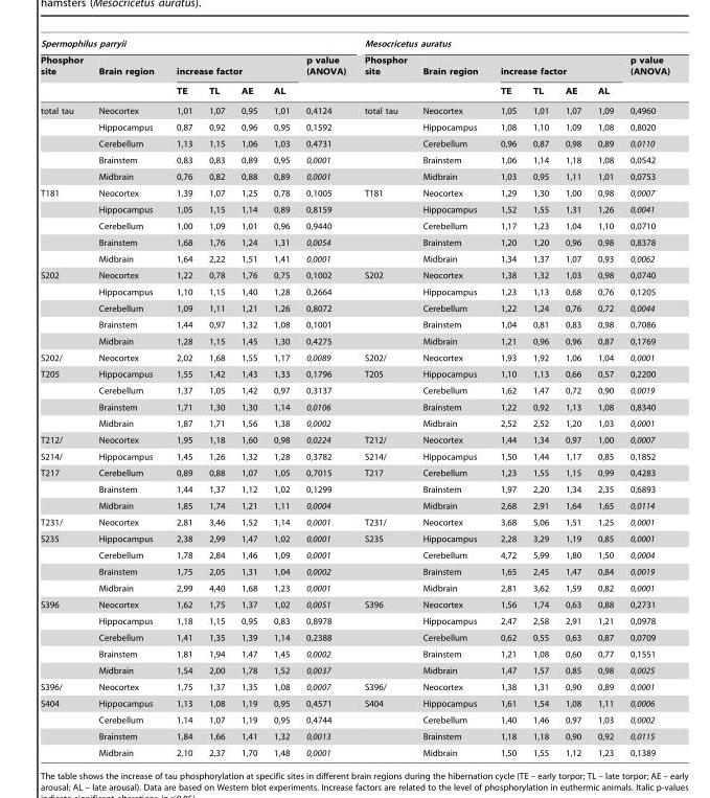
<table><thead><tr><td colspan="7">Spermophilus parryii</td><td colspan="7">Mesocricetus auratus</td></tr><tr><td rowspan="2">Phosphor site</td><td rowspan="2">Brain region</td><td colspan="4">increase factor</td><td rowspan="2">p value (ANOVA)</td><td rowspan="2">Phosphor site</td><td rowspan="2">Brain region</td><td colspan="4">increase factor</td><td rowspan="2">p value (ANOVA)</td></tr><tr><td>TE</td><td>TL</td><td>AE</td><td>AL</td><td>TE</td><td>TL</td><td>AE</td><td>AL</td></tr></thead><tbody><tr><td rowspan="5">total tau</td><td>Neocortex</td><td>1,01</td><td>1,07</td><td>0,95</td><td>1,01</td><td>0,4124</td><td>total tau</td><td>Neocortex</td><td>1,05</td><td>1,01</td><td>1,07</td><td>1,09</td><td>0,4960</td></tr><tr><td>Hippocampus</td><td>0,87</td><td>0,92</td><td>0,96</td><td>0,95</td><td>0,1592</td><td></td><td>Hippocampus</td><td>1,08</td><td>1,10</td><td>1,09</td><td>1,08</td><td>0,8020</td></tr><tr><td>Cerebellum</td><td>1,13</td><td>1,15</td><td>1,06</td><td>1,03</td><td>0,4731</td><td></td><td>Cerebellum</td><td>0,96</td><td>0,87</td><td>0,98</td><td>0,89</td><td>0,0110</td></tr><tr><td>Brainstem</td><td>0,83</td><td>0,83</td><td>0,89</td><td>0,95</td><td>0,0001</td><td></td><td>Brainstem</td><td>1,06</td><td>1,14</td><td>1,18</td><td>1,08</td><td>0,0542</td></tr><tr><td>Midbrain</td><td>0,76</td><td>0,82</td><td>0,88</td><td>0,89</td><td>0,0001</td><td></td><td>Midbrain</td><td>1,03</td><td>0,95</td><td>1,11</td><td>1,01</td><td>0,0753</td></tr><tr><td rowspan="5">T181</td><td>Neocortex</td><td>1,39</td><td>1,07</td><td>1,25</td><td>0,78</td><td>0,1005</td><td>T181</td><td>Neocortex</td><td>1,29</td><td>1,30</td><td>1,00</td><td>0,98</td><td>0,0007</td></tr><tr><td>Hippocampus</td><td>1,05</td><td>1,15</td><td>1,14</td><td>0,89</td><td>0,8159</td><td></td><td>Hippocampus</td><td>1,52</td><td>1,55</td><td>1,31</td><td>1,26</td><td>0,0041</td></tr><tr><td>Cerebellum</td><td>1,00</td><td>1,09</td><td>1,01</td><td>0,96</td><td>0,9440</td><td></td><td>Cerebellum</td><td>1,17</td><td>1,23</td><td>1,04</td><td>1,10</td><td>0,0710</td></tr><tr><td>Brainstem</td><td>1,68</td><td>1,76</td><td>1,24</td><td>1,31</td><td>0,0054</td><td></td><td>Brainstem</td><td>1,20</td><td>1,20</td><td>0,96</td><td>0,98</td><td>0,8378</td></tr><tr><td>Midbrain</td><td>1,64</td><td>2,22</td><td>1,51</td><td>1,41</td><td>0,0001</td><td></td><td>Midbrain</td><td>1,34</td><td>1,37</td><td>1,07</td><td>0,93</td><td>0,0062</td></tr><tr><td rowspan="5">S202</td><td>Neocortex</td><td>1,22</td><td>0,78</td><td>1,76</td><td>0,75</td><td>0,1002</td><td>S202</td><td>Neocortex</td><td>1,38</td><td>1,32</td><td>1,03</td><td>0,98</td><td>0,0740</td></tr><tr><td>Hippocampus</td><td>1,10</td><td>1,15</td><td>1,40</td><td>1,28</td><td>0,2664</td><td></td><td>Hippocampus</td><td>1,23</td><td>1,13</td><td>0,68</td><td>0,76</td><td>0,1205</td></tr><tr><td>Cerebellum</td><td>1,09</td><td>1,11</td><td>1,21</td><td>1,26</td><td>0,8072</td><td></td><td>Cerebellum</td><td>1,22</td><td>1,24</td><td>0,76</td><td>0,72</td><td>0,0044</td></tr><tr><td>Brainstem</td><td>1,44</td><td>0,97</td><td>1,32</td><td>1,08</td><td>0,1001</td><td></td><td>Brainstem</td><td>1,04</td><td>0,81</td><td>0,83</td><td>0,98</td><td>0,7086</td></tr><tr><td>Midbrain</td><td>1,28</td><td>1,15</td><td>1,45</td><td>1,30</td><td>0,4275</td><td></td><td>Midbrain</td><td>1,21</td><td>0,96</td><td>0,96</td><td>0,87</td><td>0,1769</td></tr><tr><td>S202/</td><td>Neocortex</td><td>2,02</td><td>1,68</td><td>1,55</td><td>1,17</td><td>0,0089</td><td>S202/</td><td>Neocortex</td><td>1,93</td><td>1,92</td><td>1,06</td><td>1,04</td><td>0,0001</td></tr><tr><td rowspan="4">T205</td><td>Hippocampus</td><td>1,55</td><td>1,42</td><td>1,43</td><td>1,33</td><td>0,1796</td><td>T205</td><td>Hippocampus</td><td>1,10</td><td>1,13</td><td>0,66</td><td>0,57</td><td>0,2200</td></tr><tr><td>Cerebellum</td><td>1,37</td><td>1,05</td><td>1,42</td><td>0,97</td><td>0,3137</td><td></td><td>Cerebellum</td><td>1,62</td><td>1,47</td><td>0,72</td><td>0,90</td><td>0,0019</td></tr><tr><td>Brainstem</td><td>1,71</td><td>1,30</td><td>1,30</td><td>1,14</td><td>0,0106</td><td></td><td>Brainstem</td><td>1,22</td><td>0,92</td><td>1,13</td><td>1,08</td><td>0,8340</td></tr><tr><td>Midbrain</td><td>1,87</td><td>1,71</td><td>1,56</td><td>1,38</td><td>0,0002</td><td></td><td>Midbrain</td><td>2,52</td><td>2,52</td><td>1,20</td><td>1,03</td><td>0,0001</td></tr><tr><td>T212/</td><td>Neocortex</td><td>1,95</td><td>1,18</td><td>1,60</td><td>0,98</td><td>0,0224</td><td>T212/</td><td>Neocortex</td><td>1,44</td><td>1,34</td><td>0,97</td><td>1,00</td><td>0,0007</td></tr><tr><td>S214/</td><td>Hippocampus</td><td>1,45</td><td>1,26</td><td>1,32</td><td>1,28</td><td>0,3782</td><td>S214/</td><td>Hippocampus</td><td>1,50</td><td>1,44</td><td>1,17</td><td>0,85</td><td>0,1852</td></tr><tr><td rowspan="3">T217</td><td>Cerebellum</td><td>0,89</td><td>0,88</td><td>1,07</td><td>1,05</td><td>0,7015</td><td>T217</td><td>Cerebellum</td><td>1,23</td><td>1,55</td><td>1,15</td><td>0,99</td><td>0,4283</td></tr><tr><td>Brainstem</td><td>1,44</td><td>1,37</td><td>1,12</td><td>1,02</td><td>0,1299</td><td></td><td>Brainstem</td><td>1,97</td><td>2,20</td><td>1,34</td><td>2,35</td><td>0,6893</td></tr><tr><td>Midbrain</td><td>1,85</td><td>1,74</td><td>1,21</td><td>1,11</td><td>0,0004</td><td></td><td>Midbrain</td><td>2,68</td><td>2,91</td><td>1,64</td><td>1,65</td><td>0,0114</td></tr><tr><td>T231/</td><td>Neocortex</td><td>2,81</td><td>3,46</td><td>1,52</td><td>1,14</td><td>0,0001</td><td>T231/</td><td>Neocortex</td><td>3,68</td><td>5,06</td><td>1,51</td><td>1,25</td><td>0,0001</td></tr><tr><td rowspan="4">S235</td><td>Hippocampus</td><td>2,38</td><td>2,99</td><td>1,47</td><td>1,02</td><td>0,0001</td><td>S235</td><td>Hippocampus</td><td>2,28</td><td>3,29</td><td>1,19</td><td>0,85</td><td>0,0001</td></tr><tr><td>Cerebellum</td><td>1,78</td><td>2,84</td><td>1,46</td><td>1,09</td><td>0,0001</td><td></td><td>Cerebellum</td><td>4,72</td><td>5,99</td><td>1,80</td><td>1,50</td><td>0,0004</td></tr><tr><td>Brainstem</td><td>1,75</td><td>2,05</td><td>1,31</td><td>1,04</td><td>0,0002</td><td></td><td>Brainstem</td><td>1,65</td><td>2,45</td><td>1,47</td><td>0,84</td><td>0,0019</td></tr><tr><td>Midbrain</td><td>2,99</td><td>4,40</td><td>1,68</td><td>1,23</td><td>0,0001</td><td></td><td>Midbrain</td><td>2,81</td><td>3,62</td><td>1,59</td><td>0,82</td><td>0,0001</td></tr><tr><td rowspan="5">S396</td><td>Neocortex</td><td>1,62</td><td>1,75</td><td>1,37</td><td>1,02</td><td>0,0051</td><td>S396</td><td>Neocortex</td><td>1,56</td><td>1,74</td><td>0,63</td><td>0,88</td><td>0,2731</td></tr><tr><td>Hippocampus</td><td>1,18</td><td>1,15</td><td>0,95</td><td>0,83</td><td>0,8978</td><td></td><td>Hippocampus</td><td>2,47</td><td>2,58</td><td>2,91</td><td>1,21</td><td>0,0978</td></tr><tr><td>Cerebellum</td><td>1,41</td><td>1,35</td><td>1,39</td><td>1,14</td><td>0,2388</td><td></td><td>Cerebellum</td><td>0,62</td><td>0,55</td><td>0,63</td><td>0,87</td><td>0,0709</td></tr><tr><td>Brainstem</td><td>1,81</td><td>1,94</td><td>1,47</td><td>1,45</td><td>0,0002</td><td></td><td>Brainstem</td><td>1,21</td><td>1,08</td><td>0,60</td><td>0,77</td><td>0,1551</td></tr><tr><td>Midbrain</td><td>1,54</td><td>2,00</td><td>1,78</td><td>1,52</td><td>0,0037</td><td></td><td>Midbrain</td><td>1,47</td><td>1,57</td><td>0,85</td><td>0,98</td><td>0,0025</td></tr><tr><td>S396/</td><td>Neocortex</td><td>1,75</td><td>1,37</td><td>1,35</td><td>1,08</td><td>0,0007</td><td>S396/</td><td>Neocortex</td><td>1,38</td><td>1,31</td><td>0,90</td><td>0,89</td><td>0,0001</td></tr><tr><td rowspan="4">S404</td><td>Hippocampus</td><td>1,13</td><td>1,08</td><td>1,19</td><td>0,95</td><td>0,4571</td><td>S404</td><td>Hippocampus</td><td>1,61</td><td>1,54</td><td>1,08</td><td>1,11</td><td>0,0006</td></tr><tr><td>Cerebellum</td><td>1,14</td><td>1,07</td><td>1,19</td><td>0,95</td><td>0,4744</td><td></td><td>Cerebellum</td><td>1,40</td><td>1,46</td><td>0,97</td><td>1,03</td><td>0,0002</td></tr><tr><td>Brainstem</td><td>1,84</td><td>1,66</td><td>1,41</td><td>1,32</td><td>0,0013</td><td></td><td>Brainstem</td><td>1,18</td><td>1,18</td><td>0,90</td><td>0,92</td><td>0,0115</td></tr><tr><td>Midbrain</td><td>2,10</td><td>2,37</td><td>1,70</td><td>1,48</td><td>0,0001</td><td></td><td>Midbrain</td><td>1,50</td><td>1,55</td><td>1,12</td><td>1,23</td><td>0,1389</td></tr></tbody></table>